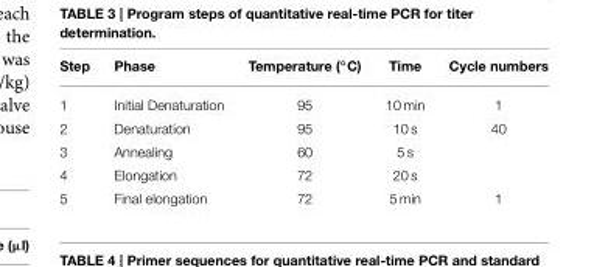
<table><thead><tr><td>Step</td><td>Phase</td><td>Temperature (◦C)</td><td>Time</td><td>Cycle numbers</td></tr></thead><tbody><tr><td>1</td><td>Initial Denaturation</td><td>95</td><td>10 min</td><td>1</td></tr><tr><td>2</td><td>Denaturation</td><td>95</td><td>10 s</td><td>40</td></tr><tr><td>3</td><td>Annealing</td><td>60</td><td>5 s</td><td></td></tr><tr><td>4</td><td>Elongation</td><td>72</td><td>20 s</td><td></td></tr><tr><td>5</td><td>Final elongation</td><td>72</td><td>5 min</td><td>1</td></tr></tbody></table>